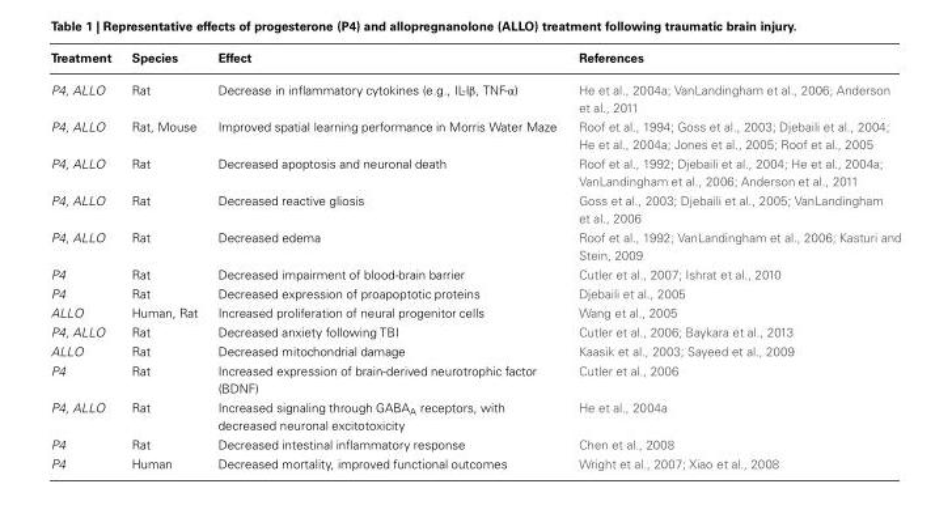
<table><thead><tr><td>Treatment</td><td>Species</td><td>Effect</td><td>References</td></tr></thead><tbody><tr><td>P4, ALLO</td><td>Rat</td><td>Decrease in inflammatory cytokines (e.g., IL-Iβ, TNF-α)</td><td>He et al., 2004a; VanLandingham et al., 2006; Anderson et al., 2011</td></tr><tr><td>P4, ALLO</td><td>Rat, Mouse</td><td>Improved spatial learning performance in Morris Water Maze</td><td>Roof et al., 1994; Goss et al., 2003; Djebaili et al., 2004; He et al., 2004a; Jones et al., 2005; Roof et al., 2005</td></tr><tr><td>P4, ALLO</td><td>Rat</td><td>Decreased apoptosis and neuronal death</td><td>Roof et al., 1992; Djebaili et al., 2004; He et al., 2004a; VanLandingham et al., 2006; Anderson et al., 2011</td></tr><tr><td>P4, ALLO</td><td>Rat</td><td>Decreased reactive gliosis</td><td>Goss et al., 2003; Djebaili et al., 2005; VanLandingham et al., 2006</td></tr><tr><td>P4, ALLO</td><td>Rat</td><td>Decreased edema</td><td>Roof et al., 1992; VanLandingham et al., 2006; Kasturi and Stein, 2009</td></tr><tr><td>P4</td><td>Rat</td><td>Decreased impairment of blood-brain barrier</td><td>Cutler et al., 2007; Ishrat et al., 2010</td></tr><tr><td>P4</td><td>Rat</td><td>Decreased expression of proapoptotic proteins</td><td>Djebaili et al., 2005</td></tr><tr><td>ALLO</td><td>Human, Rat</td><td>Increased proliferation of neural progenitor cells</td><td>Wang et al., 2005</td></tr><tr><td>P4, ALLO</td><td>Rat</td><td>Decreased anxiety following TBI</td><td>Cutler et al., 2006; Baykara et al., 2013</td></tr><tr><td>ALLO</td><td>Rat</td><td>Decreased mitochondrial damage</td><td>Kaasik et al., 2003; Sayeed et al., 2009</td></tr><tr><td>P4</td><td>Rat</td><td>Increased expression of brain-derived neurotrophic factor (BDNF)</td><td>Cutler et al., 2006</td></tr><tr><td>P4, ALLO</td><td>Rat</td><td>Increased signaling through GABA<sub>A</sub> receptors, with decreased neuronal excitotoxicity</td><td>He et al., 2004a</td></tr><tr><td>P4</td><td>Rat</td><td>Decreased intestinal inflammatory response</td><td>Chen et al., 2008</td></tr><tr><td>P4</td><td>Human</td><td>Decreased mortality, improved functional outcomes</td><td>Wright et al., 2007; Xiao et al., 2008</td></tr></tbody></table>